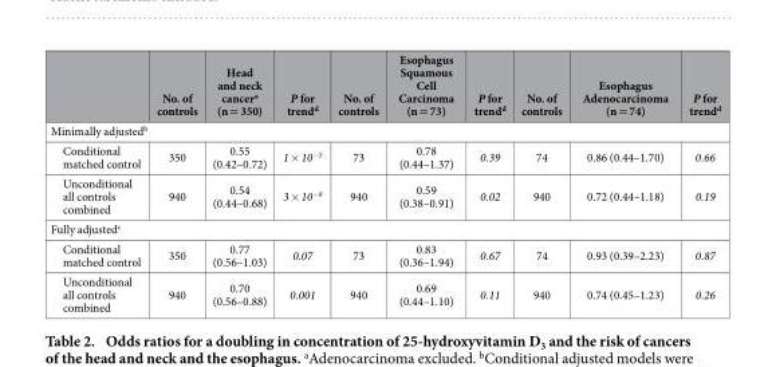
<table><thead><tr><td></td><td>No. of controls</td><td>Head and neck cancer<sup>a</sup> (n = 350)</td><td>P for trend<sup>d</sup></td><td>No. of controls</td><td>Esophagus Squamous Cell Carcinoma (n = 73)</td><td>P for trend<sup>d</sup></td><td>No. of controls</td><td>Esophagus Adenocarcinoma (n = 74)</td><td>P for trend<sup>d</sup></td></tr></thead><tbody><tr><td colspan="10">Minimally adjusted<sup>b</sup></td></tr><tr><td>Conditional matched control</td><td>350</td><td>0.55 (0.42–0.72)</td><td>1 × 10<sup>−5</sup></td><td>73</td><td>0.78 (0.44–1.37)</td><td>0.39</td><td>74</td><td>0.86 (0.44–1.70)</td><td>0.66</td></tr><tr><td>Unconditional all controls combined</td><td>940</td><td>0.54 (0.44–0.68)</td><td>3 × 10<sup>−8</sup></td><td>940</td><td>0.59 (0.38–0.91)</td><td>0.02</td><td>940</td><td>0.72 (0.44–1.18)</td><td>0.19</td></tr><tr><td colspan="10">Fully adjusted<sup>c</sup></td></tr><tr><td>Conditional matched control</td><td>350</td><td>0.77 (0.56–1.03)</td><td>0.07</td><td>73</td><td>0.83 (0.36–1.94)</td><td>0.67</td><td>74</td><td>0.93 (0.39–2.23)</td><td>0.87</td></tr><tr><td>Unconditional all controls combined</td><td>940</td><td>0.70 (0.56–0.88)</td><td>0.001</td><td>940</td><td>0.69 (0.44–1.10)</td><td>0.11</td><td>940</td><td>0.74 (0.45–1.23)</td><td>0.26</td></tr></tbody></table>